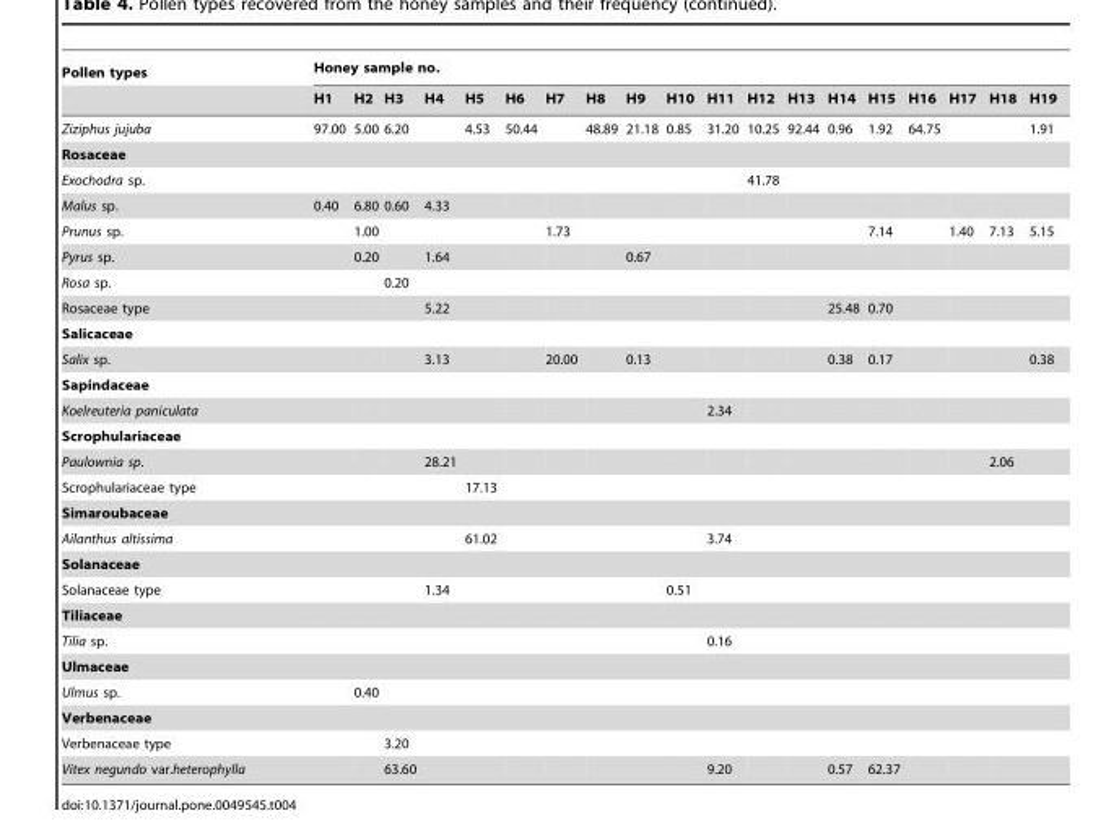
<table><thead><tr><td rowspan="2">Pollen types</td><td colspan="19">Honey sample no.</td></tr><tr><td>H1</td><td>H2</td><td>H3</td><td>H4</td><td>H5</td><td>H6</td><td>H7</td><td>H8</td><td>H9</td><td>H10</td><td>H11</td><td>H12</td><td>H13</td><td>H14</td><td>H15</td><td>H16</td><td>H17</td><td>H18</td><td>H19</td></tr></thead><tbody><tr><td>Ziziphus jujuba</td><td>97.00</td><td>5.00</td><td>6.20</td><td></td><td>4.53</td><td>50.44</td><td></td><td>48.89</td><td>21.18</td><td>0.85</td><td>31.20</td><td>10.25</td><td>92.44</td><td>0.96</td><td>1.92</td><td>64.75</td><td></td><td></td><td>1.91</td></tr><tr><td colspan="20">Rosaceae</td></tr><tr><td>Exochodra sp.</td><td></td><td></td><td></td><td></td><td></td><td></td><td></td><td></td><td></td><td></td><td></td><td>41.78</td><td></td><td></td><td></td><td></td><td></td><td></td><td></td></tr><tr><td>Malus sp.</td><td>0.40</td><td>6.80</td><td>0.60</td><td>4.33</td><td></td><td></td><td></td><td></td><td></td><td></td><td></td><td></td><td></td><td></td><td></td><td></td><td></td><td></td><td></td></tr><tr><td>Prunus sp.</td><td></td><td>1.00</td><td></td><td></td><td></td><td></td><td>1.73</td><td></td><td></td><td></td><td></td><td></td><td></td><td></td><td>7.14</td><td></td><td>1.40</td><td>7.13</td><td>5.15</td></tr><tr><td>Pyrus sp.</td><td></td><td>0.20</td><td></td><td>1.64</td><td></td><td></td><td></td><td></td><td>0.67</td><td></td><td></td><td></td><td></td><td></td><td></td><td></td><td></td><td></td><td></td></tr><tr><td>Rosa sp.</td><td></td><td></td><td>0.20</td><td></td><td></td><td></td><td></td><td></td><td></td><td></td><td></td><td></td><td></td><td></td><td></td><td></td><td></td><td></td><td></td></tr><tr><td>Rosaceae type</td><td></td><td></td><td></td><td>5.22</td><td></td><td></td><td></td><td></td><td></td><td></td><td></td><td></td><td></td><td>25.48</td><td>0.70</td><td></td><td></td><td></td><td></td></tr><tr><td colspan="20">Salicaceae</td></tr><tr><td>Salix sp.</td><td></td><td></td><td></td><td>3.13</td><td></td><td></td><td>20.00</td><td></td><td>0.13</td><td></td><td></td><td></td><td></td><td>0.38</td><td>0.17</td><td></td><td></td><td></td><td>0.38</td></tr><tr><td colspan="20">Sapindaceae</td></tr><tr><td>Koelreuteria paniculata</td><td></td><td></td><td></td><td></td><td></td><td></td><td></td><td></td><td></td><td></td><td>2.34</td><td></td><td></td><td></td><td></td><td></td><td></td><td></td><td></td></tr><tr><td colspan="20">Scrophulariaceae</td></tr><tr><td>Paulownia sp.</td><td></td><td></td><td></td><td>28.21</td><td></td><td></td><td></td><td></td><td></td><td></td><td></td><td></td><td></td><td></td><td></td><td></td><td></td><td>2.06</td><td></td></tr><tr><td>Scrophulariaceae type</td><td></td><td></td><td></td><td></td><td>17.13</td><td></td><td></td><td></td><td></td><td></td><td></td><td></td><td></td><td></td><td></td><td></td><td></td><td></td><td></td></tr><tr><td colspan="20">Simaroubaceae</td></tr><tr><td>Ailanthus altissima</td><td></td><td></td><td></td><td></td><td>61.02</td><td></td><td></td><td></td><td></td><td></td><td>3.74</td><td></td><td></td><td></td><td></td><td></td><td></td><td></td><td></td></tr><tr><td colspan="20">Solanaceae</td></tr><tr><td>Solanaceae type</td><td></td><td></td><td></td><td>1.34</td><td></td><td></td><td></td><td></td><td></td><td>0.51</td><td></td><td></td><td></td><td></td><td></td><td></td><td></td><td></td><td></td></tr><tr><td colspan="20">Tiliaceae</td></tr><tr><td>Tilia sp.</td><td></td><td></td><td></td><td></td><td></td><td></td><td></td><td></td><td></td><td></td><td>0.16</td><td></td><td></td><td></td><td></td><td></td><td></td><td></td><td></td></tr><tr><td colspan="20">Ulmaceae</td></tr><tr><td>Ulmus sp.</td><td></td><td>0.40</td><td></td><td></td><td></td><td></td><td></td><td></td><td></td><td></td><td></td><td></td><td></td><td></td><td></td><td></td><td></td><td></td><td></td></tr><tr><td colspan="20">Verbenaceae</td></tr><tr><td>Verbenaceae type</td><td></td><td></td><td>3.20</td><td></td><td></td><td></td><td></td><td></td><td></td><td></td><td></td><td></td><td></td><td></td><td></td><td></td><td></td><td></td><td></td></tr><tr><td>Vitex negundo var.heterophylla</td><td></td><td></td><td>63.60</td><td></td><td></td><td></td><td></td><td></td><td></td><td></td><td>9.20</td><td></td><td></td><td>0.57</td><td>62.37</td><td></td><td></td><td></td><td></td></tr></tbody></table>